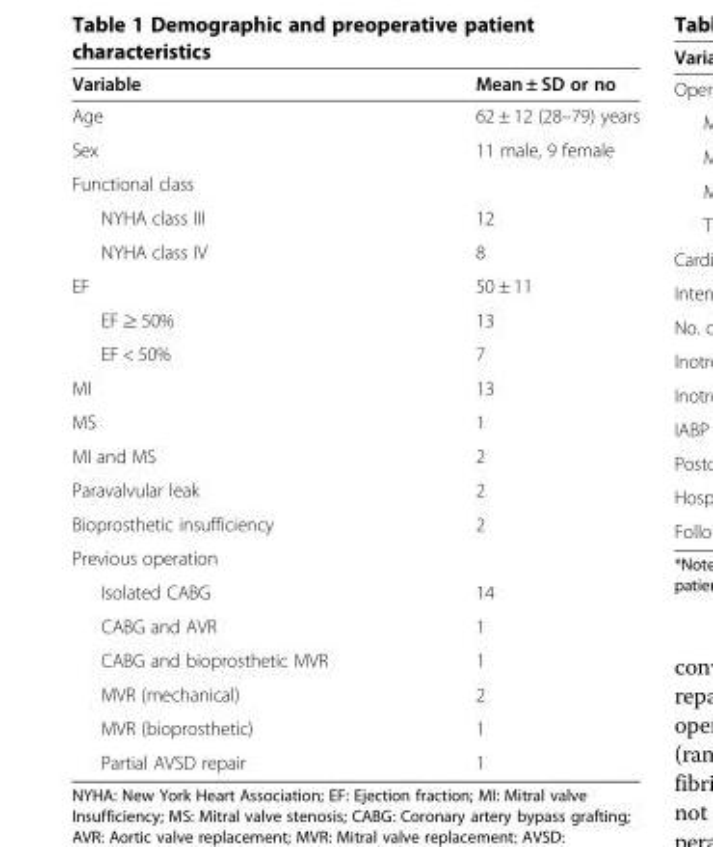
<table><thead><tr><td>Variable</td><td>Mean ± SD or no</td></tr></thead><tbody><tr><td>Age</td><td>62 ± 12 (28–79) years</td></tr><tr><td>Sex</td><td>11 male, 9 female</td></tr><tr><td colspan="2">Functional class</td></tr><tr><td>NYHA class III</td><td>12</td></tr><tr><td>NYHA class IV</td><td>8</td></tr><tr><td>EF</td><td>50 ± 11</td></tr><tr><td>EF ≥ 50%</td><td>13</td></tr><tr><td>EF &lt; 50%</td><td>7</td></tr><tr><td>MI</td><td>13</td></tr><tr><td>MS</td><td>1</td></tr><tr><td>MI and MS</td><td>2</td></tr><tr><td>Paravalvular leak</td><td>2</td></tr><tr><td>Bioprosthetic insufficiency</td><td>2</td></tr><tr><td colspan="2">Previous operation</td></tr><tr><td>Isolated CABG</td><td>14</td></tr><tr><td>CABG and AVR</td><td>1</td></tr><tr><td>CABG and bioprosthetic MVR</td><td>1</td></tr><tr><td>MVR (mechanical)</td><td>2</td></tr><tr><td>MVR (bioprosthetic)</td><td>1</td></tr><tr><td>Partial AVSD repair</td><td>1</td></tr></tbody></table>